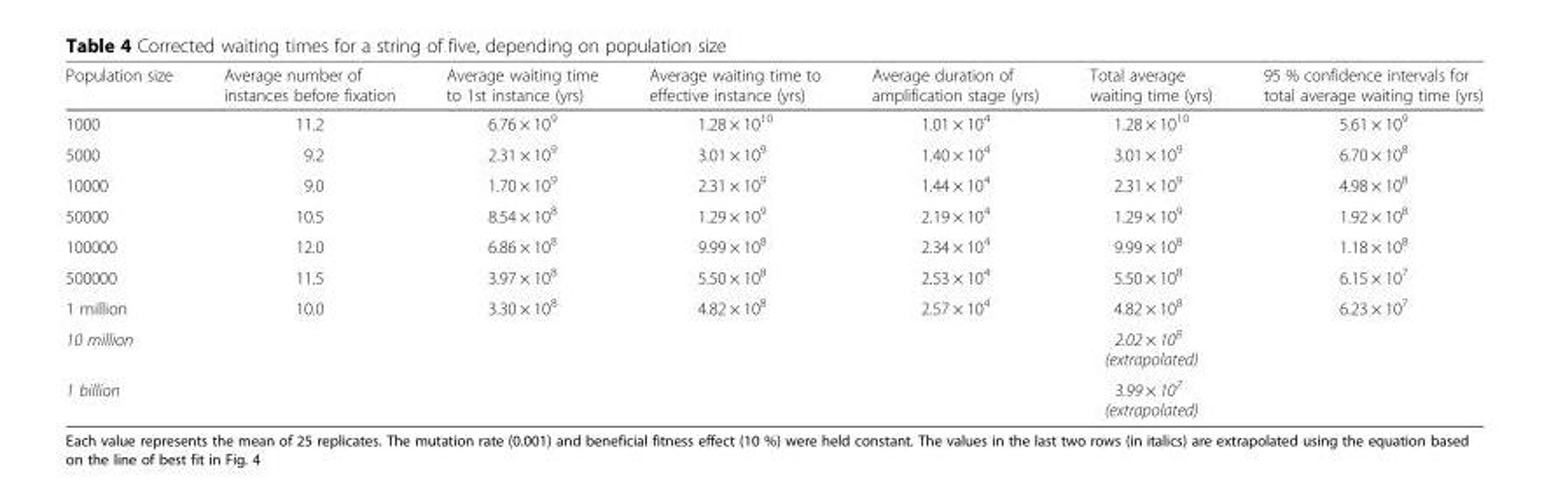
<table><thead><tr><td>Population size</td><td>Average number of instances before fixation</td><td>Average waiting time to 1st instance (yrs)</td><td>Average waiting time to effective instance (yrs)</td><td>Average duration of amplification stage (yrs)</td><td>Total average waiting time (yrs)</td><td>95 % confidence intervals for total average waiting time (yrs)</td></tr></thead><tbody><tr><td>1000</td><td>11.2</td><td>6.76 × 10<sup>9</sup></td><td>1.28 × 10<sup>10</sup></td><td>1.01 × 10<sup>4</sup></td><td>1.28 × 10<sup>10</sup></td><td>5.61 × 10<sup>9</sup></td></tr><tr><td>5000</td><td>9.2</td><td>2.31 × 10<sup>9</sup></td><td>3.01 × 10<sup>9</sup></td><td>1.40 × 10<sup>4</sup></td><td>3.01 × 10<sup>9</sup></td><td>6.70 × 10<sup>8</sup></td></tr><tr><td>10000</td><td>9.0</td><td>1.70 × 10<sup>9</sup></td><td>2.31 × 10<sup>9</sup></td><td>1.44 × 10<sup>4</sup></td><td>2.31 × 10<sup>9</sup></td><td>4.98 × 10<sup>8</sup></td></tr><tr><td>50000</td><td>10.5</td><td>8.54 × 10<sup>8</sup></td><td>1.29 × 10<sup>9</sup></td><td>2.19 × 10<sup>4</sup></td><td>1.29 × 10<sup>9</sup></td><td>1.92 × 10<sup>8</sup></td></tr><tr><td>100000</td><td>12.0</td><td>6.86 × 10<sup>8</sup></td><td>9.99 × 10<sup>8</sup></td><td>2.34 × 10<sup>4</sup></td><td>9.99 × 10<sup>8</sup></td><td>1.18 × 10<sup>8</sup></td></tr><tr><td>500000</td><td>11.5</td><td>3.97 × 10<sup>8</sup></td><td>5.50 × 10<sup>8</sup></td><td>2.53 × 10<sup>4</sup></td><td>5.50 × 10<sup>8</sup></td><td>6.15 × 10<sup>7</sup></td></tr><tr><td>1 million</td><td>10.0</td><td>3.30 × 10<sup>8</sup></td><td>4.82 × 10<sup>8</sup></td><td>2.57 × 10<sup>4</sup></td><td>4.82 × 10<sup>8</sup></td><td>6.23 × 10<sup>7</sup></td></tr><tr><td>10 million</td><td></td><td></td><td></td><td></td><td>2.02 × 10<sup>8</sup> (extrapolated)</td><td></td></tr><tr><td>1 billion</td><td></td><td></td><td></td><td></td><td>3.99 × 10<sup>7</sup> (extrapolated)</td><td></td></tr></tbody></table>